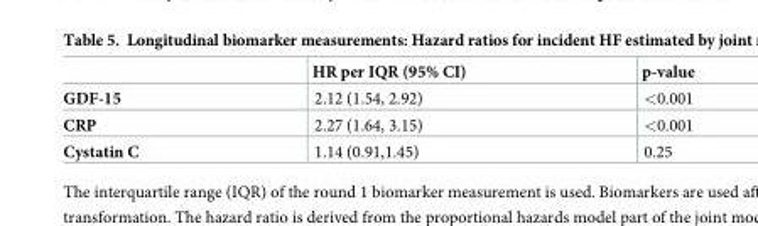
<table><thead><tr><td></td><td>HR per IQR (95% CI)</td><td>p-value</td></tr></thead><tbody><tr><td>GDF-15</td><td>2.12 (1.54, 2.92)</td><td>&lt;0.001</td></tr><tr><td>CRP</td><td>2.27 (1.64, 3.15)</td><td>&lt;0.001</td></tr><tr><td>Cystatin C</td><td>1.14 (0.91,1.45)</td><td>0.25</td></tr></tbody></table>